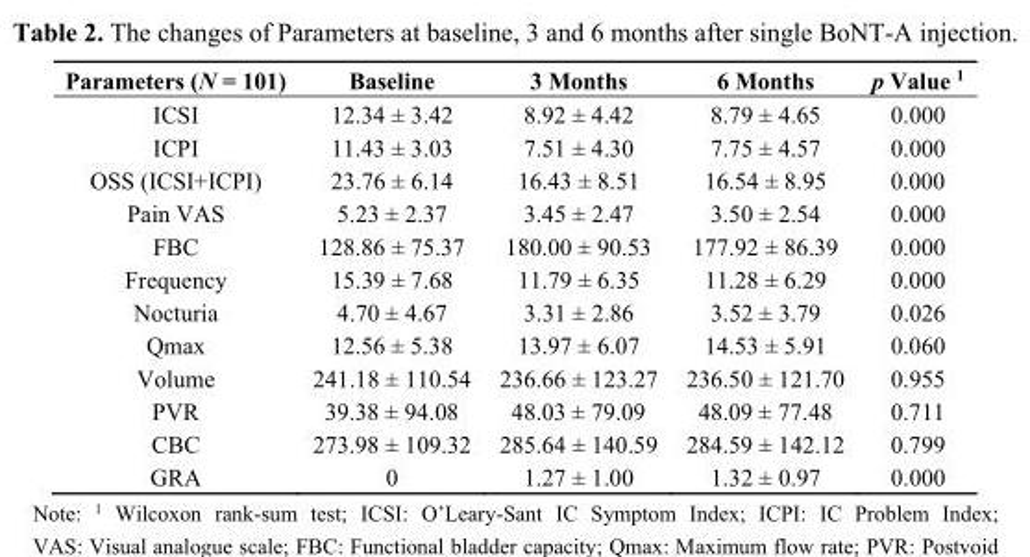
<table><thead><tr><td>Parameters (N = 101)</td><td>Baseline</td><td>3 Months</td><td>6 Months</td><td>p Value <sup>1</sup></td></tr></thead><tbody><tr><td>ICSI</td><td>12.34 ± 3.42</td><td>8.92 ± 4.42</td><td>8.79 ± 4.65</td><td>0.000</td></tr><tr><td>ICPI</td><td>11.43 ± 3.03</td><td>7.51 ± 4.30</td><td>7.75 ± 4.57</td><td>0.000</td></tr><tr><td>OSS (ICSI+ICPI)</td><td>23.76 ± 6.14</td><td>16.43 ± 8.51</td><td>16.54 ± 8.95</td><td>0.000</td></tr><tr><td>Pain VAS</td><td>5.23 ± 2.37</td><td>3.45 ± 2.47</td><td>3.50 ± 2.54</td><td>0.000</td></tr><tr><td>FBC</td><td>128.86 ± 75.37</td><td>180.00 ± 90.53</td><td>177.92 ± 86.39</td><td>0.000</td></tr><tr><td>Frequency</td><td>15.39 ± 7.68</td><td>11.79 ± 6.35</td><td>11.28 ± 6.29</td><td>0.000</td></tr><tr><td>Nocturia</td><td>4.70 ± 4.67</td><td>3.31 ± 2.86</td><td>3.52 ± 3.79</td><td>0.026</td></tr><tr><td>Qmax</td><td>12.56 ± 5.38</td><td>13.97 ± 6.07</td><td>14.53 ± 5.91</td><td>0.060</td></tr><tr><td>Volume</td><td>241.18 ± 110.54</td><td>236.66 ± 123.27</td><td>236.50 ± 121.70</td><td>0.955</td></tr><tr><td>PVR</td><td>39.38 ± 94.08</td><td>48.03 ± 79.09</td><td>48.09 ± 77.48</td><td>0.711</td></tr><tr><td>CBC</td><td>273.98 ± 109.32</td><td>285.64 ± 140.59</td><td>284.59 ± 142.12</td><td>0.799</td></tr><tr><td>GRA</td><td>0</td><td>1.27 ± 1.00</td><td>1.32 ± 0.97</td><td>0.000</td></tr></tbody></table>